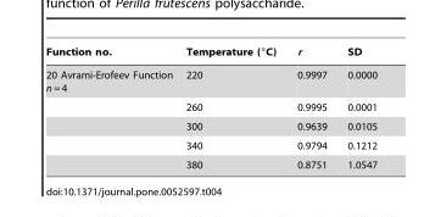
<table><thead><tr><td>Function no.</td><td>Temperature (°C)</td><td>r</td><td>SD</td></tr></thead><tbody><tr><td rowspan="5">20 Avrami-Erofeev Function n = 4</td><td>220</td><td>0.9997</td><td>0.0000</td></tr><tr><td>260</td><td>0.9995</td><td>0.0001</td></tr><tr><td>300</td><td>0.9639</td><td>0.0105</td></tr><tr><td>340</td><td>0.9794</td><td>0.1212</td></tr><tr><td>380</td><td>0.8751</td><td>1.0547</td></tr></tbody></table>